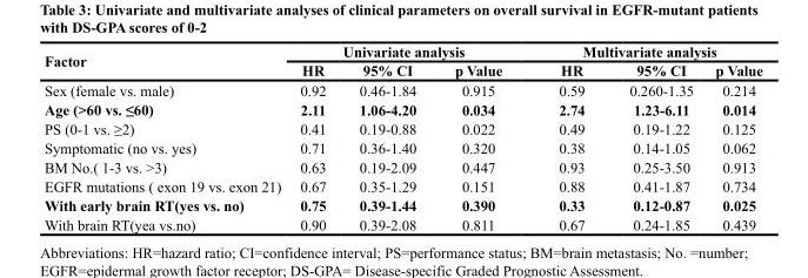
<table><thead><tr><td rowspan="2">Factor</td><td colspan="3">Univariate analysis</td><td colspan="3">Multivariate analysis</td></tr><tr><td>HR</td><td>95% CI</td><td>p Value</td><td>HR</td><td>95% CI</td><td>p Value</td></tr></thead><tbody><tr><td>Sex (female vs. male)</td><td>0.92</td><td>0.46-1.84</td><td>0.915</td><td>0.59</td><td>0.260-1.35</td><td>0.214</td></tr><tr><td>Age (&gt;60 vs. ≤60)</td><td>2.11</td><td>1.06-4.20</td><td>0.034</td><td>2.74</td><td>1.23-6.11</td><td>0.014</td></tr><tr><td>PS (0-1 vs. ≥2)</td><td>0.41</td><td>0.19-0.88</td><td>0.022</td><td>0.49</td><td>0.19-1.22</td><td>0.125</td></tr><tr><td>Symptomatic (no vs. yes)</td><td>0.71</td><td>0.36-1.40</td><td>0.320</td><td>0.38</td><td>0.14-1.05</td><td>0.062</td></tr><tr><td>BM No.( 1-3 vs. &gt;3)</td><td>0.63</td><td>0.19-2.09</td><td>0.447</td><td>0.93</td><td>0.25-3.50</td><td>0.913</td></tr><tr><td>EGFR mutations ( exon 19 vs. exon 21)</td><td>0.67</td><td>0.35-1.29</td><td>0.151</td><td>0.88</td><td>0.41-1.87</td><td>0.734</td></tr><tr><td>With early brain RT(yes vs. no)</td><td>0.75</td><td>0.39-1.44</td><td>0.390</td><td>0.33</td><td>0.12-0.87</td><td>0.025</td></tr><tr><td>With brain RT(yea vs.no)</td><td>0.90</td><td>0.39-2.08</td><td>0.811</td><td>0.67</td><td>0.24-1.85</td><td>0.439</td></tr></tbody></table>